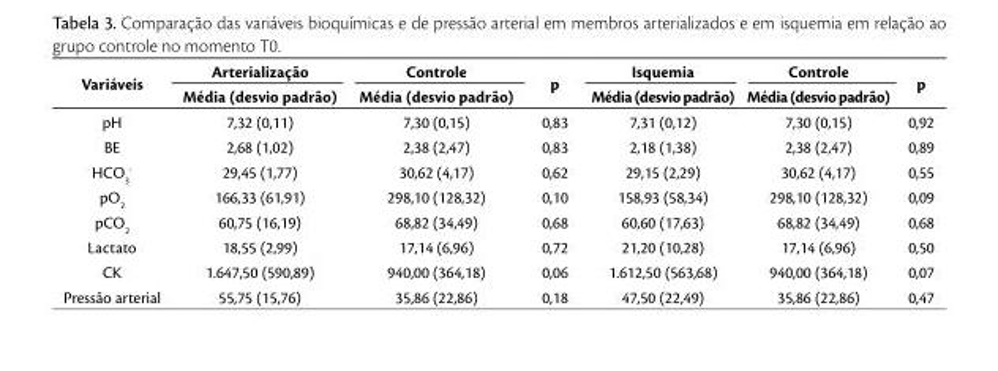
<table><thead><tr><td rowspan="2">Variáveis</td><td rowspan="2">Arterialização Média (desvio padrão)</td><td rowspan="2">Controle Média (desvio padrão)</td><td rowspan="2">p</td><td rowspan="2">Isquemia Média (desvio padrão)</td><td rowspan="2">Controle Média (desvio padrão)</td><td rowspan="2">p</td></tr><tr></tr></thead><tbody><tr><td>pH</td><td>7,32 (0,11)</td><td>7,30 (0,15)</td><td>0,83</td><td>7,31 (0,12)</td><td>7,30 (0,15)</td><td>0,92</td></tr><tr><td>BE</td><td>2,68 (1,02)</td><td>2,38 (2,47)</td><td>0,83</td><td>2,18 (1,38)</td><td>2,38 (2,47)</td><td>0,89</td></tr><tr><td>HCO<sub>3</sub> <sup>-</sup></td><td>29,45 (1,77)</td><td>30,62 (4,17)</td><td>0,62</td><td>29,15 (2,29)</td><td>30,62 (4,17)</td><td>0,55</td></tr><tr><td>pO<sub>2</sub></td><td>166,33 (61,91)</td><td>298,10 (128,32)</td><td>0,10</td><td>158,93 (58,34)</td><td>298,10 (128,32)</td><td>0,09</td></tr><tr><td>pCO<sub>2</sub></td><td>60,75 (16,19)</td><td>68,82 (34,49)</td><td>0,68</td><td>60,60 (17,63)</td><td>68,82 (34,49)</td><td>0,68</td></tr><tr><td>Lactato</td><td>18,55 (2,99)</td><td>17,14 (6,96)</td><td>0,72</td><td>21,20 (10,28)</td><td>17,14 (6,96)</td><td>0,50</td></tr><tr><td>CK</td><td>1.647,50 (590,89)</td><td>940,00 (364,18)</td><td>0,06</td><td>1.612,50 (563,68)</td><td>940,00 (364,18)</td><td>0,07</td></tr><tr><td>Pressão arterial</td><td>55,75 (15,76)</td><td>35,86 (22,86)</td><td>0,18</td><td>47,50 (22,49)</td><td>35,86 (22,86)</td><td>0,47</td></tr></tbody></table>